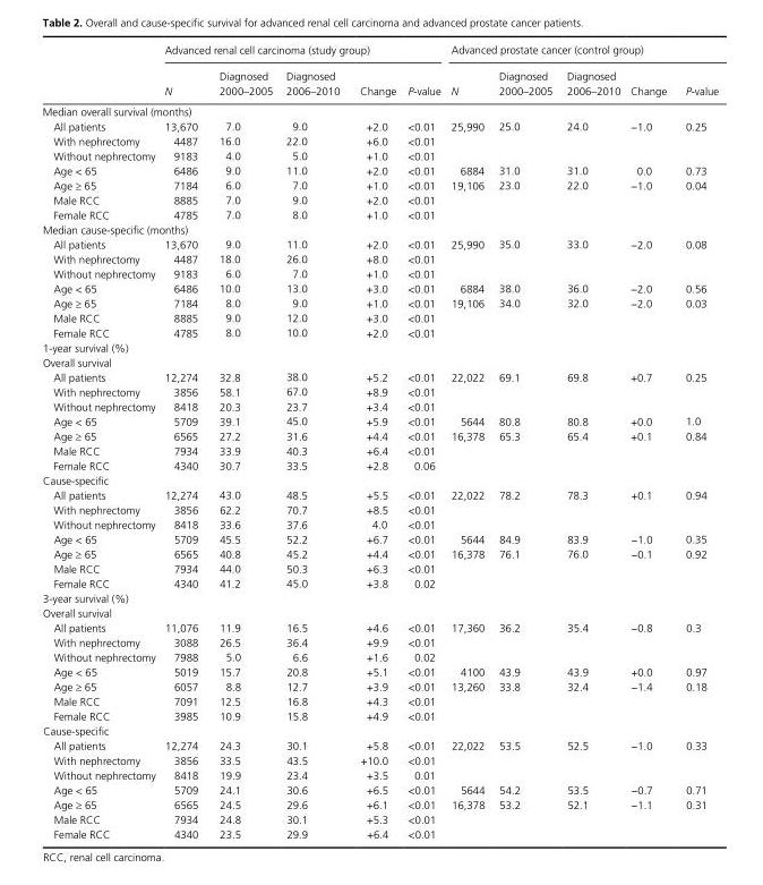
<table><thead><tr><td rowspan="2"></td><td colspan="5">Advanced renal cell carcinoma (study group)</td><td colspan="5">Advanced prostate cancer (control group)</td></tr><tr><td>N</td><td>Diagnosed 2000–2005</td><td>Diagnosed 2006–2010</td><td>Change</td><td>P- value</td><td>N</td><td>Diagnosed 2000–2005</td><td>Diagnosed 2006–2010</td><td>Change</td><td>P- value</td></tr></thead><tbody><tr><td colspan="11">Median overall survival (months)</td></tr><tr><td>All patients</td><td>13,670</td><td>7.0</td><td>9.0</td><td>+2.0</td><td>&lt;0.01</td><td>25,990</td><td>25.0</td><td>24.0</td><td>−1.0</td><td>0.25</td></tr><tr><td>With nephrectomy</td><td>4487</td><td>16.0</td><td>22.0</td><td>+6.0</td><td>&lt;0.01</td><td></td><td></td><td></td><td></td><td></td></tr><tr><td>Without nephrectomy</td><td>9183</td><td>4.0</td><td>5.0</td><td>+1.0</td><td>&lt;0.01</td><td></td><td></td><td></td><td></td><td></td></tr><tr><td>Age &lt; 65</td><td>6486</td><td>9.0</td><td>11.0</td><td>+2.0</td><td>&lt;0.01</td><td>6884</td><td>31.0</td><td>31.0</td><td>0.0</td><td>0.73</td></tr><tr><td>Age ≥ 65</td><td>7184</td><td>6.0</td><td>7.0</td><td>+1.0</td><td>&lt;0.01</td><td>19,106</td><td>23.0</td><td>22.0</td><td>−1.0</td><td>0.04</td></tr><tr><td>Male RCC</td><td>8885</td><td>7.0</td><td>9.0</td><td>+2.0</td><td>&lt;0.01</td><td></td><td></td><td></td><td></td><td></td></tr><tr><td>Female RCC</td><td>4785</td><td>7.0</td><td>8.0</td><td>+1.0</td><td>&lt;0.01</td><td></td><td></td><td></td><td></td><td></td></tr><tr><td colspan="11">Median cause- specific (months)</td></tr><tr><td>All patients</td><td>13,670</td><td>9.0</td><td>11.0</td><td>+2.0</td><td>&lt;0.01</td><td>25,990</td><td>35.0</td><td>33.0</td><td>−2.0</td><td>0.08</td></tr><tr><td>With nephrectomy</td><td>4487</td><td>18.0</td><td>26.0</td><td>+8.0</td><td>&lt;0.01</td><td></td><td></td><td></td><td></td><td></td></tr><tr><td>Without nephrectomy</td><td>9183</td><td>6.0</td><td>7.0</td><td>+1.0</td><td>&lt;0.01</td><td></td><td></td><td></td><td></td><td></td></tr><tr><td>Age &lt; 65</td><td>6486</td><td>10.0</td><td>13.0</td><td>+3.0</td><td>&lt;0.01</td><td>6884</td><td>38.0</td><td>36.0</td><td>−2.0</td><td>0.56</td></tr><tr><td>Age ≥ 65</td><td>7184</td><td>8.0</td><td>9.0</td><td>+1.0</td><td>&lt;0.01</td><td>19,106</td><td>34.0</td><td>32.0</td><td>−2.0</td><td>0.03</td></tr><tr><td>Male RCC</td><td>8885</td><td>9.0</td><td>12.0</td><td>+3.0</td><td>&lt;0.01</td><td></td><td></td><td></td><td></td><td></td></tr><tr><td>Female RCC</td><td>4785</td><td>8.0</td><td>10.0</td><td>+2.0</td><td>&lt;0.01</td><td></td><td></td><td></td><td></td><td></td></tr><tr><td colspan="11">1- year survival (%)</td></tr><tr><td colspan="11">Overall survival</td></tr><tr><td>All patients</td><td>12,274</td><td>32.8</td><td>38.0</td><td>+5.2</td><td>&lt;0.01</td><td>22,022</td><td>69.1</td><td>69.8</td><td>+0.7</td><td>0.25</td></tr><tr><td>With nephrectomy</td><td>3856</td><td>58.1</td><td>67.0</td><td>+8.9</td><td>&lt;0.01</td><td></td><td></td><td></td><td></td><td></td></tr><tr><td>Without nephrectomy</td><td>8418</td><td>20.3</td><td>23.7</td><td>+3.4</td><td>&lt;0.01</td><td></td><td></td><td></td><td></td><td></td></tr><tr><td>Age &lt; 65</td><td>5709</td><td>39.1</td><td>45.0</td><td>+5.9</td><td>&lt;0.01</td><td>5644</td><td>80.8</td><td>80.8</td><td>+0.0</td><td>1.0</td></tr><tr><td>Age ≥ 65</td><td>6565</td><td>27.2</td><td>31.6</td><td>+4.4</td><td>&lt;0.01</td><td>16,378</td><td>65.3</td><td>65.4</td><td>+0.1</td><td>0.84</td></tr><tr><td>Male RCC</td><td>7934</td><td>33.9</td><td>40.3</td><td>+6.4</td><td>&lt;0.01</td><td></td><td></td><td></td><td></td><td></td></tr><tr><td>Female RCC</td><td>4340</td><td>30.7</td><td>33.5</td><td>+2.8</td><td>0.06</td><td></td><td></td><td></td><td></td><td></td></tr><tr><td colspan="11">Cause- specific</td></tr><tr><td>All patients</td><td>12,274</td><td>43.0</td><td>48.5</td><td>+5.5</td><td>&lt;0.01</td><td>22,022</td><td>78.2</td><td>78.3</td><td>+0.1</td><td>0.94</td></tr><tr><td>With nephrectomy</td><td>3856</td><td>62.2</td><td>70.7</td><td>+8.5</td><td>&lt;0.01</td><td></td><td></td><td></td><td></td><td></td></tr><tr><td>Without nephrectomy</td><td>8418</td><td>33.6</td><td>37.6</td><td>4.0</td><td>&lt;0.01</td><td></td><td></td><td></td><td></td><td></td></tr><tr><td>Age &lt; 65</td><td>5709</td><td>45.5</td><td>52.2</td><td>+6.7</td><td>&lt;0.01</td><td>5644</td><td>84.9</td><td>83.9</td><td>−1.0</td><td>0.35</td></tr><tr><td>Age ≥ 65</td><td>6565</td><td>40.8</td><td>45.2</td><td>+4.4</td><td>&lt;0.01</td><td>16,378</td><td>76.1</td><td>76.0</td><td>−0.1</td><td>0.92</td></tr><tr><td>Male RCC</td><td>7934</td><td>44.0</td><td>50.3</td><td>+6.3</td><td>&lt;0.01</td><td></td><td></td><td></td><td></td><td></td></tr><tr><td>Female RCC</td><td>4340</td><td>41.2</td><td>45.0</td><td>+3.8</td><td>0.02</td><td></td><td></td><td></td><td></td><td></td></tr><tr><td colspan="11">3- year survival (%)</td></tr><tr><td colspan="11">Overall survival</td></tr><tr><td>All patients</td><td>11,076</td><td>11.9</td><td>16.5</td><td>+4.6</td><td>&lt;0.01</td><td>17,360</td><td>36.2</td><td>35.4</td><td>−0.8</td><td>0.3</td></tr><tr><td>With nephrectomy</td><td>3088</td><td>26.5</td><td>36.4</td><td>+9.9</td><td>&lt;0.01</td><td></td><td></td><td></td><td></td><td></td></tr><tr><td>Without nephrectomy</td><td>7988</td><td>5.0</td><td>6.6</td><td>+1.6</td><td>0.02</td><td></td><td></td><td></td><td></td><td></td></tr><tr><td>Age &lt; 65</td><td>5019</td><td>15.7</td><td>20.8</td><td>+5.1</td><td>&lt;0.01</td><td>4100</td><td>43.9</td><td>43.9</td><td>+0.0</td><td>0.97</td></tr><tr><td>Age ≥ 65</td><td>6057</td><td>8.8</td><td>12.7</td><td>+3.9</td><td>&lt;0.01</td><td>13,260</td><td>33.8</td><td>32.4</td><td>−1.4</td><td>0.18</td></tr><tr><td>Male RCC</td><td>7091</td><td>12.5</td><td>16.8</td><td>+4.3</td><td>&lt;0.01</td><td></td><td></td><td></td><td></td><td></td></tr><tr><td>Female RCC</td><td>3985</td><td>10.9</td><td>15.8</td><td>+4.9</td><td>&lt;0.01</td><td></td><td></td><td></td><td></td><td></td></tr><tr><td colspan="11">Cause- specific</td></tr><tr><td>All patients</td><td>12,274</td><td>24.3</td><td>30.1</td><td>+5.8</td><td>&lt;0.01</td><td>22,022</td><td>53.5</td><td>52.5</td><td>−1.0</td><td>0.33</td></tr><tr><td>With nephrectomy</td><td>3856</td><td>33.5</td><td>43.5</td><td>+10.0</td><td>&lt;0.01</td><td></td><td></td><td></td><td></td><td></td></tr><tr><td>Without nephrectomy</td><td>8418</td><td>19.9</td><td>23.4</td><td>+3.5</td><td>0.01</td><td></td><td></td><td></td><td></td><td></td></tr><tr><td>Age &lt; 65</td><td>5709</td><td>24.1</td><td>30.6</td><td>+6.5</td><td>&lt;0.01</td><td>5644</td><td>54.2</td><td>53.5</td><td>−0.7</td><td>0.71</td></tr><tr><td>Age ≥ 65</td><td>6565</td><td>24.5</td><td>29.6</td><td>+6.1</td><td>&lt;0.01</td><td>16,378</td><td>53.2</td><td>52.1</td><td>−1.1</td><td>0.31</td></tr><tr><td>Male RCC</td><td>7934</td><td>24.8</td><td>30.1</td><td>+5.3</td><td>&lt;0.01</td><td></td><td></td><td></td><td></td><td></td></tr><tr><td>Female RCC</td><td>4340</td><td>23.5</td><td>29.9</td><td>+6.4</td><td>&lt;0.01</td><td></td><td></td><td></td><td></td><td></td></tr></tbody></table>